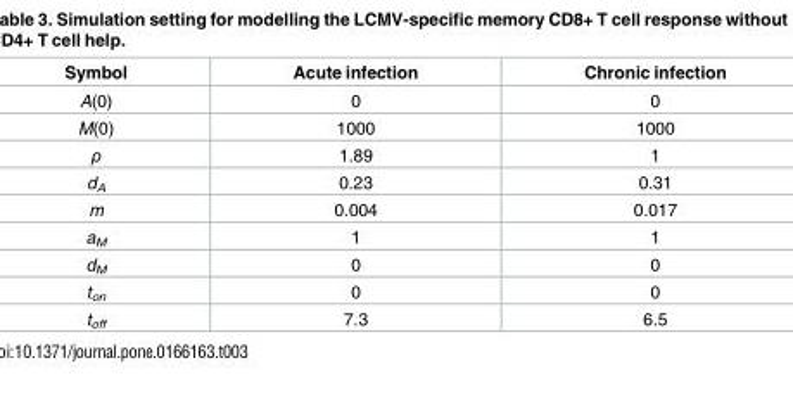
<table><thead><tr><td>Symbol</td><td>Acute infection</td><td>Chronic infection</td></tr></thead><tbody><tr><td>A(0)</td><td>0</td><td>0</td></tr><tr><td>M(0)</td><td>1000</td><td>1000</td></tr><tr><td>ρ</td><td>1.89</td><td>1</td></tr><tr><td>d<sub>A</sub></td><td>0.23</td><td>0.31</td></tr><tr><td>m</td><td>0.004</td><td>0.017</td></tr><tr><td>a<sub>M</sub></td><td>1</td><td>1</td></tr><tr><td>d<sub>M</sub></td><td>0</td><td>0</td></tr><tr><td>t<sub>on</sub></td><td>0</td><td>0</td></tr><tr><td>t<sub>off</sub></td><td>7.3</td><td>6.5</td></tr></tbody></table>